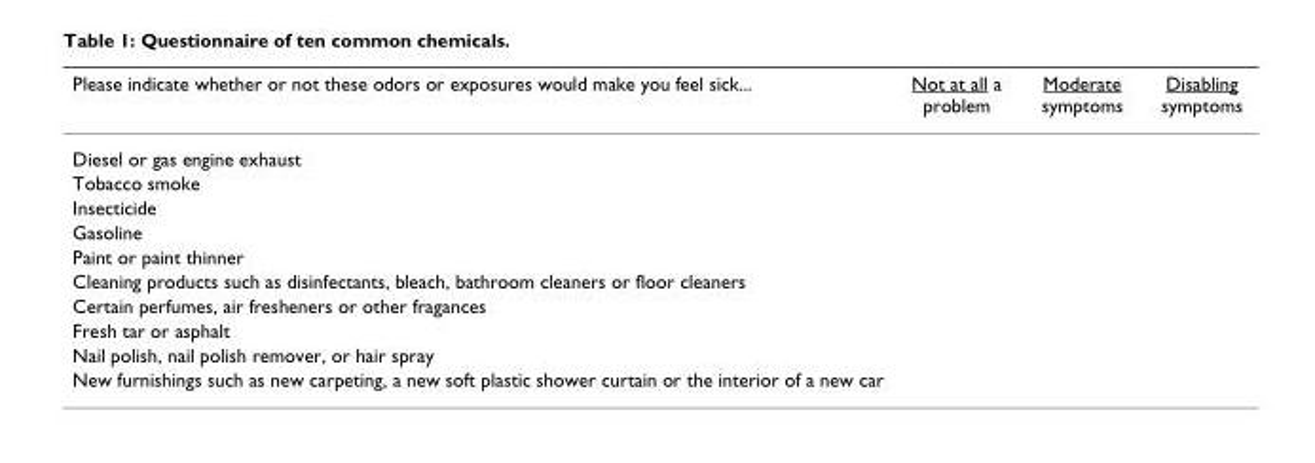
<table><thead><tr><td>Please indicate whether or not these odors or exposures would make you feel sick...</td><td>Not at all a problem</td><td>Moderate symptoms</td><td>Disabling symptoms</td></tr></thead><tbody><tr><td colspan="4">Diesel or gas engine exhaust</td></tr><tr><td colspan="4">Tobacco smoke</td></tr><tr><td colspan="4">Insecticide</td></tr><tr><td colspan="4">Gasoline</td></tr><tr><td colspan="4">Paint or paint thinner</td></tr><tr><td colspan="4">Cleaning products such as disinfectants, bleach, bathroom cleaners or floor cleaners</td></tr><tr><td colspan="4">Certain perfumes, air fresheners or other fragances</td></tr><tr><td colspan="4">Fresh tar or asphalt</td></tr><tr><td colspan="4">Nail polish, nail polish remover, or hair spray</td></tr><tr><td>New furnishings such as new carpeting, a new soft plastic shower curtain or the interior of a new car</td><td></td><td></td><td></td></tr></tbody></table>